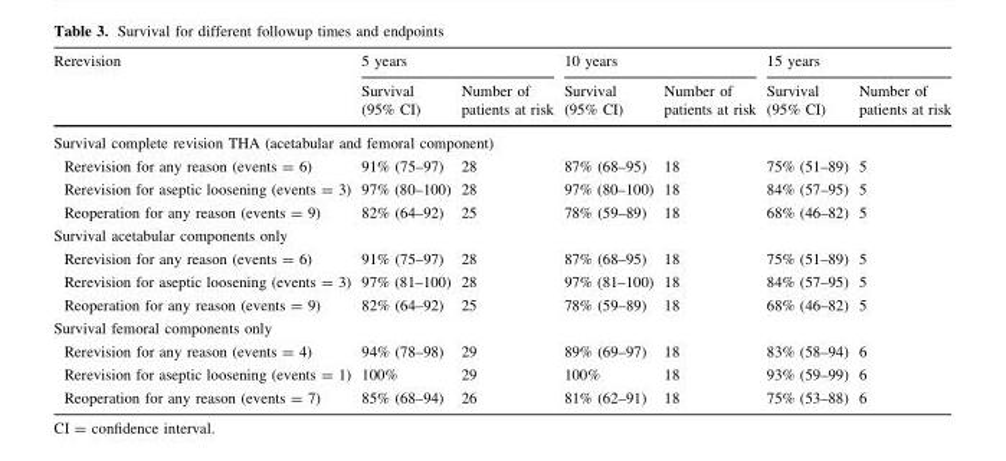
<table><thead><tr><td rowspan="2">Rerevision</td><td colspan="2">5 years</td><td colspan="2">10 years</td><td colspan="2">15 years</td></tr><tr><td>Survival (95% CI)</td><td>Number of patients at risk</td><td>Survival (95% CI)</td><td>Number of patients at risk</td><td>Survival (95% CI)</td><td>Number of patients at risk</td></tr></thead><tbody><tr><td colspan="7">Survival complete revision THA (acetabular and femoral component)</td></tr><tr><td>Rerevision for any reason (events = 6)</td><td>91% (75–97)</td><td>28</td><td>87% (68–95)</td><td>18</td><td>75% (51–89)</td><td>5</td></tr><tr><td>Rerevision for aseptic loosening (events = 3)</td><td>97% (80–100)</td><td>28</td><td>97% (80–100)</td><td>18</td><td>84% (57–95)</td><td>5</td></tr><tr><td>Reoperation for any reason (events = 9)</td><td>82% (64–92)</td><td>25</td><td>78% (59–89)</td><td>18</td><td>68% (46–82)</td><td>5</td></tr><tr><td colspan="7">Survival acetabular components only</td></tr><tr><td>Rerevision for any reason (events = 6)</td><td>91% (75–97)</td><td>28</td><td>87% (68–95)</td><td>18</td><td>75% (51–89)</td><td>5</td></tr><tr><td>Rerevision for aseptic loosening (events = 3)</td><td>97% (81–100)</td><td>28</td><td>97% (81–100)</td><td>18</td><td>84% (57–95)</td><td>5</td></tr><tr><td>Reoperation for any reason (events = 9)</td><td>82% (64–92)</td><td>25</td><td>78% (59–89)</td><td>18</td><td>68% (46–82)</td><td>5</td></tr><tr><td colspan="7">Survival femoral components only</td></tr><tr><td>Rerevision for any reason (events = 4)</td><td>94% (78–98)</td><td>29</td><td>89% (69–97)</td><td>18</td><td>83% (58–94)</td><td>6</td></tr><tr><td>Rerevision for aseptic loosening (events = 1)</td><td>100%</td><td>29</td><td>100%</td><td>18</td><td>93% (59–99)</td><td>6</td></tr><tr><td>Reoperation for any reason (events = 7)</td><td>85% (68–94)</td><td>26</td><td>81% (62–91)</td><td>18</td><td>75% (53–88)</td><td>6</td></tr></tbody></table>